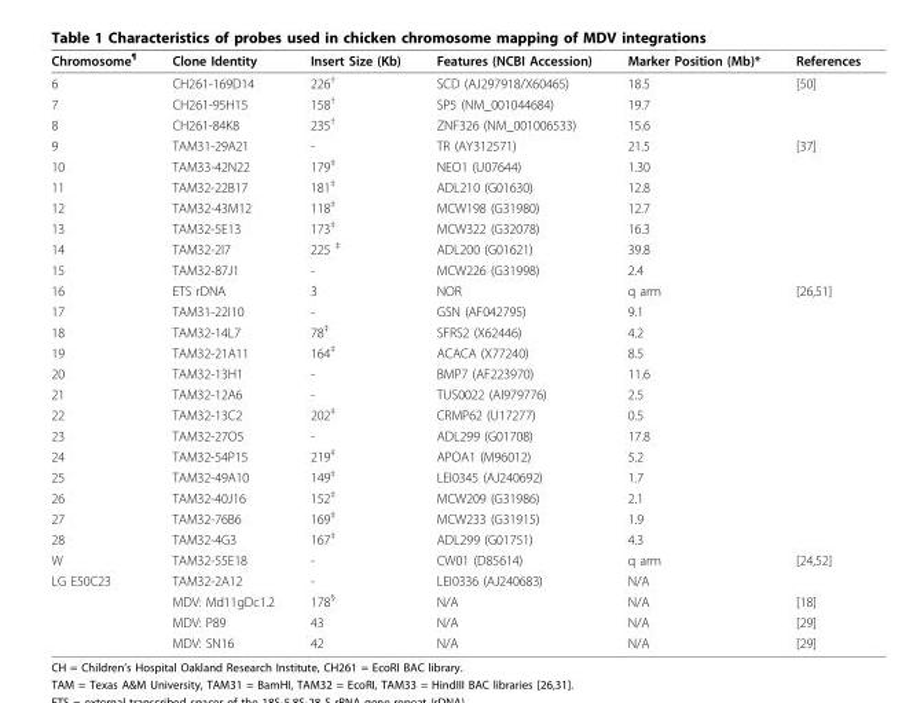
<table><thead><tr><td>Chromosome<sup>¶</sup></td><td>Clone Identity</td><td>Insert Size (Kb)</td><td>Features (NCBI Accession)</td><td>Marker Position (Mb)*</td><td>References</td></tr></thead><tbody><tr><td>6</td><td>CH261-169D14</td><td>226<sup>†</sup></td><td>SCD (AJ297918/X60465)</td><td>18.5</td><td>[50]</td></tr><tr><td>7</td><td>CH261-95H15</td><td>158<sup>†</sup></td><td>SP5 (NM_001044684)</td><td>19.7</td><td></td></tr><tr><td>8</td><td>CH261-84K8</td><td>235<sup>†</sup></td><td>ZNF326 (NM_001006533)</td><td>15.6</td><td></td></tr><tr><td>9</td><td>TAM31-29A21</td><td>-</td><td>TR (AY312571)</td><td>21.5</td><td>[37]</td></tr><tr><td>10</td><td>TAM33-42N22</td><td>179<sup>‡</sup></td><td>NEO1 (U07644)</td><td>1.30</td><td></td></tr><tr><td>11</td><td>TAM32-22B17</td><td>181<sup>‡</sup></td><td>ADL210 (G01630)</td><td>12.8</td><td></td></tr><tr><td>12</td><td>TAM32-43M12</td><td>118<sup>‡</sup></td><td>MCW198 (G31980)</td><td>12.7</td><td></td></tr><tr><td>13</td><td>TAM32-5E13</td><td>173<sup>‡</sup></td><td>MCW322 (G32078)</td><td>16.3</td><td></td></tr><tr><td>14</td><td>TAM32-2I7</td><td>225 <sup>‡</sup></td><td>ADL200 (G01621)</td><td>39.8</td><td></td></tr><tr><td>15</td><td>TAM32-87J1</td><td>-</td><td>MCW226 (G31998)</td><td>2.4</td><td></td></tr><tr><td>16</td><td>ETS rDNA</td><td>3</td><td>NOR</td><td>q arm</td><td>[26,51]</td></tr><tr><td>17</td><td>TAM31-22I10</td><td>-</td><td>GSN (AF042795)</td><td>9.1</td><td></td></tr><tr><td>18</td><td>TAM32-14L7</td><td>78<sup>‡</sup></td><td>SFRS2 (X62446)</td><td>4.2</td><td></td></tr><tr><td>19</td><td>TAM32-21A11</td><td>164<sup>‡</sup></td><td>ACACA (X77240)</td><td>8.5</td><td></td></tr><tr><td>20</td><td>TAM32-13H1</td><td>-</td><td>BMP7 (AF223970)</td><td>11.6</td><td></td></tr><tr><td>21</td><td>TAM32-12A6</td><td>-</td><td>TUS0022 (AI979776)</td><td>2.5</td><td></td></tr><tr><td>22</td><td>TAM32-13C2</td><td>202<sup>‡</sup></td><td>CRMP62 (U17277)</td><td>0.5</td><td></td></tr><tr><td>23</td><td>TAM32-27O5</td><td>-</td><td>ADL299 (G01708)</td><td>17.8</td><td></td></tr><tr><td>24</td><td>TAM32-54P15</td><td>219<sup>‡</sup></td><td>APOA1 (M96012)</td><td>5.2</td><td></td></tr><tr><td>25</td><td>TAM32-49A10</td><td>149<sup>‡</sup></td><td>LEI0345 (AJ240692)</td><td>1.7</td><td></td></tr><tr><td>26</td><td>TAM32-40J16</td><td>152<sup>‡</sup></td><td>MCW209 (G31986)</td><td>2.1</td><td></td></tr><tr><td>27</td><td>TAM32-76B6</td><td>169<sup>‡</sup></td><td>MCW233 (G31915)</td><td>1.9</td><td></td></tr><tr><td>28</td><td>TAM32-4G3</td><td>167<sup>‡</sup></td><td>ADL299 (G01751)</td><td>4.3</td><td></td></tr><tr><td>W</td><td>TAM32-55E18</td><td>-</td><td>CW01 (D85614)</td><td>q arm</td><td>[24,52]</td></tr><tr><td rowspan="4">LG E50C23</td><td>TAM32-2A12</td><td>-</td><td>LEI0336 (AJ240683)</td><td>N/A</td><td></td></tr><tr><td>MDV: Md11gDc1.2</td><td>178<sup>§</sup></td><td>N/A</td><td>N/A</td><td>[18]</td></tr><tr><td>MDV: P89</td><td>43</td><td>N/A</td><td>N/A</td><td>[29]</td></tr><tr><td>MDV: SN16</td><td>42</td><td>N/A</td><td>N/A</td><td>[29]</td></tr></tbody></table>